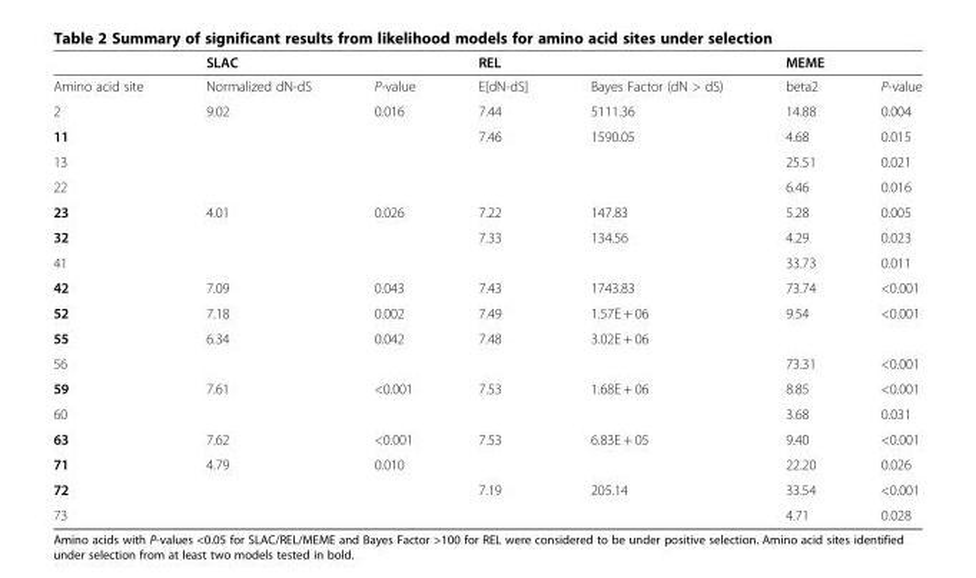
<table><thead><tr><td rowspan="2">Amino acid site</td><td colspan="2">SLAC</td><td colspan="2">REL</td><td colspan="2">MEME</td></tr><tr><td>Normalized dN-dS</td><td>P-value</td><td>E[dN-dS]</td><td>Bayes Factor (dN &gt; dS)</td><td>beta2</td><td>P-value</td></tr></thead><tbody><tr><td>2</td><td>9.02</td><td>0.016</td><td>7.44</td><td>5111.36</td><td>14.88</td><td>0.004</td></tr><tr><td>11</td><td></td><td></td><td>7.46</td><td>1590.05</td><td>4.68</td><td>0.015</td></tr><tr><td>13</td><td></td><td></td><td></td><td></td><td>25.51</td><td>0.021</td></tr><tr><td>22</td><td></td><td></td><td></td><td></td><td>6.46</td><td>0.016</td></tr><tr><td>23</td><td>4.01</td><td>0.026</td><td>7.22</td><td>147.83</td><td>5.28</td><td>0.005</td></tr><tr><td>32</td><td></td><td></td><td>7.33</td><td>134.56</td><td>4.29</td><td>0.023</td></tr><tr><td>41</td><td></td><td></td><td></td><td></td><td>33.73</td><td>0.011</td></tr><tr><td>42</td><td>7.09</td><td>0.043</td><td>7.43</td><td>1743.83</td><td>73.74</td><td>&lt;0.001</td></tr><tr><td>52</td><td>7.18</td><td>0.002</td><td>7.49</td><td>1.57E + 06</td><td>9.54</td><td>&lt;0.001</td></tr><tr><td>55</td><td>6.34</td><td>0.042</td><td>7.48</td><td>3.02E + 06</td><td></td><td></td></tr><tr><td>56</td><td></td><td></td><td></td><td></td><td>73.31</td><td>&lt;0.001</td></tr><tr><td>59</td><td>7.61</td><td>&lt;0.001</td><td>7.53</td><td>1.68E + 06</td><td>8.85</td><td>&lt;0.001</td></tr><tr><td>60</td><td></td><td></td><td></td><td></td><td>3.68</td><td>0.031</td></tr><tr><td>63</td><td>7.62</td><td>&lt;0.001</td><td>7.53</td><td>6.83E + 05</td><td>9.40</td><td>&lt;0.001</td></tr><tr><td>71</td><td>4.79</td><td>0.010</td><td></td><td></td><td>22.20</td><td>0.026</td></tr><tr><td>72</td><td></td><td></td><td>7.19</td><td>205.14</td><td>33.54</td><td>&lt;0.001</td></tr><tr><td>73</td><td></td><td></td><td></td><td></td><td>4.71</td><td>0.028</td></tr></tbody></table>